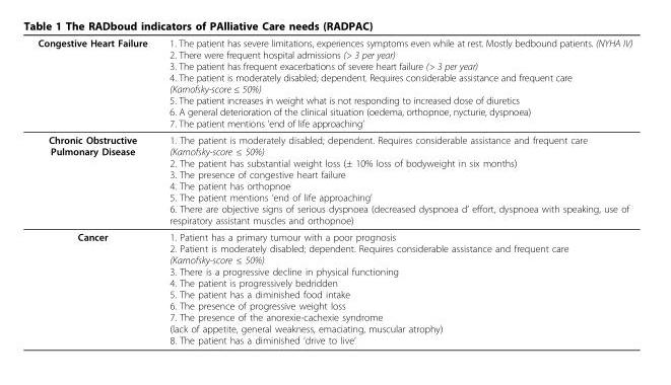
<table><thead><tr><td>Congestive Heart Failure</td><td>1. The patient has severe limitations, experiences symptoms even while at rest. Mostly bedbound patients. (NYHA IV) 2. There were frequent hospital admissions (&gt; 3 per year) 3. The patient has frequent exacerbations of severe heart failure (&gt; 3 per year) 4. The patient is moderately disabled; dependent. Requires considerable assistance and frequent care (Karnofsky-score ≤ 50%) 5. The patient increases in weight what is not responding to increased dose of diuretics 6. A general deterioration of the clinical situation (oedema, orthopnoe, nycturie, dyspnoea) 7. The patient mentions ‘end of life approaching’</td></tr></thead><tbody><tr><td>Chronic Obstructive Pulmonary Disease</td><td>1. The patient is moderately disabled; dependent. Requires considerable assistance and frequent care (Karnofsky-score ≤ 50%) 2. The patient has substantial weight loss (± 10% loss of bodyweight in six months) 3. The presence of congestive heart failure 4. The patient has orthopnoe 5. The patient mentions ‘end of life approaching’ 6. There are objective signs of serious dyspnoea (decreased dyspnoea d’ effort, dyspnoea with speaking, use of respiratory assistant muscles and orthopnoe)</td></tr><tr><td>Cancer</td><td>1. Patient has a primary tumour with a poor prognosis 2. Patient is moderately disabled; dependent. Requires considerable assistance and frequent care (Karnofsky-score ≤ 50%) 3. There is a progressive decline in physical functioning 4. The patient is progressively bedridden 5. The patient has a diminished food intake 6. The presence of progressive weight loss 7. The presence of the anorexie-cachexie syndrome (lack of appetite, general weakness, emaciating, muscular atrophy) 8. The patient has a diminished ‘drive to live’</td></tr></tbody></table>